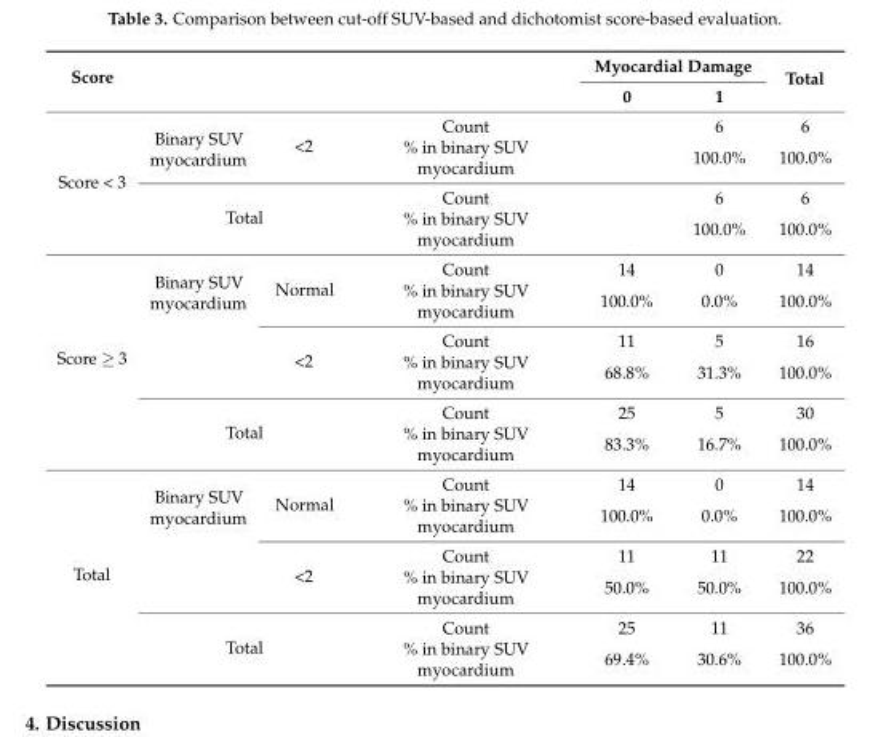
<table><thead><tr><td rowspan="2">Score</td><td rowspan="2"></td><td rowspan="2"></td><td rowspan="2"></td><td colspan="2">Myocardial Damage</td><td rowspan="2">Total</td></tr><tr><td>0</td><td>1</td></tr></thead><tbody><tr><td rowspan="4">Score &lt; 3</td><td rowspan="2">Binary SUV myocardium</td><td rowspan="2">&lt;2</td><td>Count</td><td></td><td>6</td><td>6</td></tr><tr><td>% in binary SUV myocardium</td><td></td><td>100.0%</td><td>100.0%</td></tr><tr><td rowspan="2" colspan="2">Total</td><td>Count</td><td></td><td>6</td><td>6</td></tr><tr><td>% in binary SUV myocardium</td><td></td><td>100.0%</td><td>100.0%</td></tr><tr><td rowspan="6">Score ≥ 3</td><td rowspan="4">Binary SUV myocardium</td><td rowspan="2">Normal</td><td>Count</td><td>14</td><td>0</td><td>14</td></tr><tr><td>% in binary SUV myocardium</td><td>100.0%</td><td>0.0%</td><td>100.0%</td></tr><tr><td rowspan="2">&lt;2</td><td>Count</td><td>11</td><td>5</td><td>16</td></tr><tr><td>% in binary SUV myocardium</td><td>68.8%</td><td>31.3%</td><td>100.0%</td></tr><tr><td rowspan="2" colspan="2">Total</td><td>Count</td><td>25</td><td>5</td><td>30</td></tr><tr><td>% in binary SUV myocardium</td><td>83.3%</td><td>16.7%</td><td>100.0%</td></tr><tr><td rowspan="6">Total</td><td rowspan="4">Binary SUV myocardium</td><td rowspan="2">Normal</td><td>Count</td><td>14</td><td>0</td><td>14</td></tr><tr><td>% in binary SUV myocardium</td><td>100.0%</td><td>0.0%</td><td>100.0%</td></tr><tr><td rowspan="2">&lt;2</td><td>Count</td><td>11</td><td>11</td><td>22</td></tr><tr><td>% in binary SUV myocardium</td><td>50.0%</td><td>50.0%</td><td>100.0%</td></tr><tr><td rowspan="2" colspan="2">Total</td><td>Count</td><td>25</td><td>11</td><td>36</td></tr><tr><td>% in binary SUV myocardium</td><td>69.4%</td><td>30.6%</td><td>100.0%</td></tr></tbody></table>